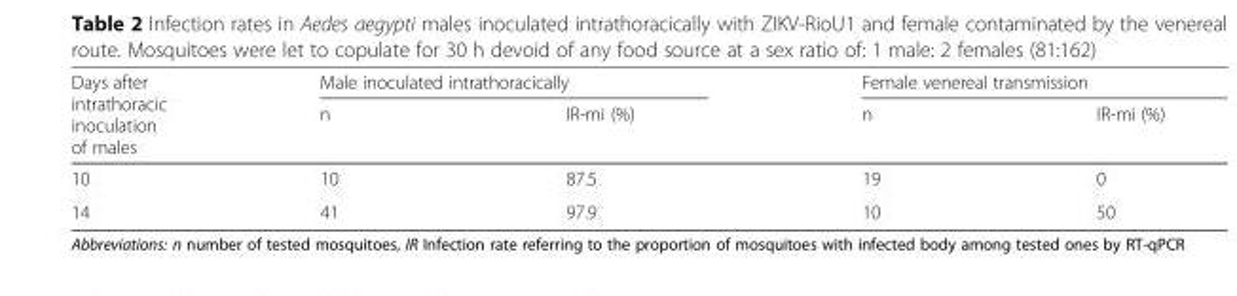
<table><thead><tr><td rowspan="2">Days after intrathoracic inoculation of males</td><td colspan="2">Male inoculated intrathoracically</td><td colspan="2">Female venereal transmission</td></tr><tr><td>n</td><td>IR-mi (%)</td><td>n</td><td>IR-mi (%)</td></tr></thead><tbody><tr><td>10</td><td>10</td><td>87.5</td><td>19</td><td>0</td></tr><tr><td>14</td><td>41</td><td>97.9</td><td>10</td><td>50</td></tr></tbody></table>